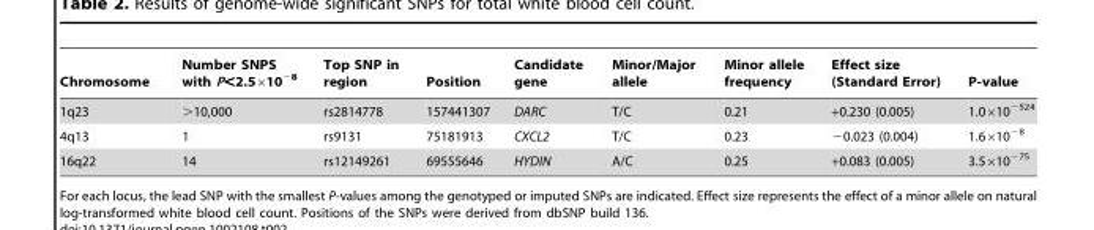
<table><thead><tr><td>Chromosome</td><td>Number SNPS with P&lt;2.5×10<sup>−8</sup></td><td>Top SNP in region</td><td>Position</td><td>Candidate gene</td><td>Minor/Major allele</td><td>Minor allele frequency</td><td>Effect size (Standard Error)</td><td>P-value</td></tr></thead><tbody><tr><td>1q23</td><td>&gt;10,000</td><td>rs2814778</td><td>157441307</td><td>DARC</td><td>T/C</td><td>0.21</td><td>+0.230 (0.005)</td><td>1.0×10<sup>−524</sup></td></tr><tr><td>4q13</td><td>1</td><td>rs9131</td><td>75181913</td><td>CXCL2</td><td>T/C</td><td>0.23</td><td>−0.023 (0.004)</td><td>1.6×10<sup>−8</sup></td></tr><tr><td>16q22</td><td>14</td><td>rs12149261</td><td>69555646</td><td>HYDIN</td><td>A/C</td><td>0.25</td><td>+0.083 (0.005)</td><td>3.5×10<sup>−75</sup></td></tr></tbody></table>